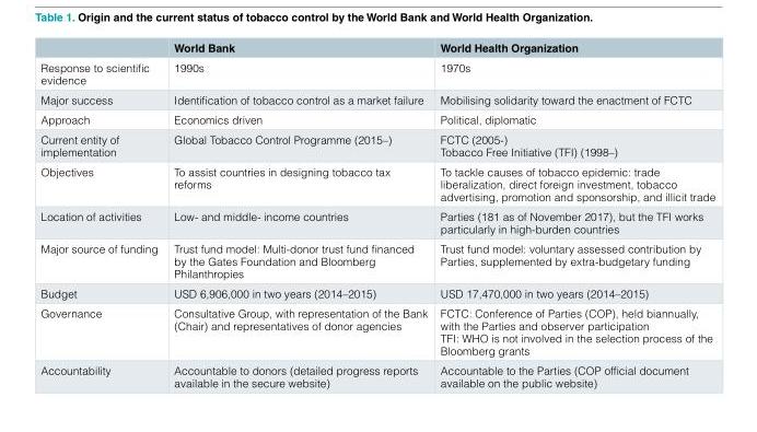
<table><thead><tr><td></td><td>World Bank</td><td>World Health Organization</td></tr></thead><tbody><tr><td>Response to scientific evidence</td><td>1990s</td><td>1970s</td></tr><tr><td>Major success</td><td>Identification of tobacco control as a market failure</td><td>Mobilising solidarity toward the enactment of FCTC</td></tr><tr><td>Approach</td><td>Economics driven</td><td>Political, diplomatic</td></tr><tr><td>Current entity of implementation</td><td>Global Tobacco Control Programme (2015–)</td><td>FCTC (2005-) Tobacco Free Initiative (TFI) (1998–)</td></tr><tr><td>Objectives</td><td>To assist countries in designing tobacco tax reforms</td><td>To tackle causes of tobacco epidemic: trade liberalization, direct foreign investment, tobacco advertising, promotion and sponsorship, and illicit trade</td></tr><tr><td>Location of activities</td><td>Low- and middle- income countries</td><td>Parties (181 as of November 2017), but the TFI works particularly in high-burden countries</td></tr><tr><td>Major source of funding</td><td>Trust fund model: Multi-donor trust fund financed by the Gates Foundation and Bloomberg Philanthropies</td><td>Trust fund model: voluntary assessed contribution by Parties, supplemented by extra-budgetary funding</td></tr><tr><td>Budget</td><td>USD 6,906,000 in two years (2014–2015)</td><td>USD 17,470,000 in two years (2014–2015)</td></tr><tr><td>Governance</td><td>Consultative Group, with representation of the Bank (Chair) and representatives of donor agencies</td><td>FCTC: Conference of Parties (COP), held biannually, with the Parties and observer participation TFI: WHO is not involved in the selection process of the Bloomberg grants</td></tr><tr><td>Accountability</td><td>Accountable to donors (detailed progress reports available in the secure website)</td><td>Accountable to the Parties (COP official document available on the public website)</td></tr></tbody></table>